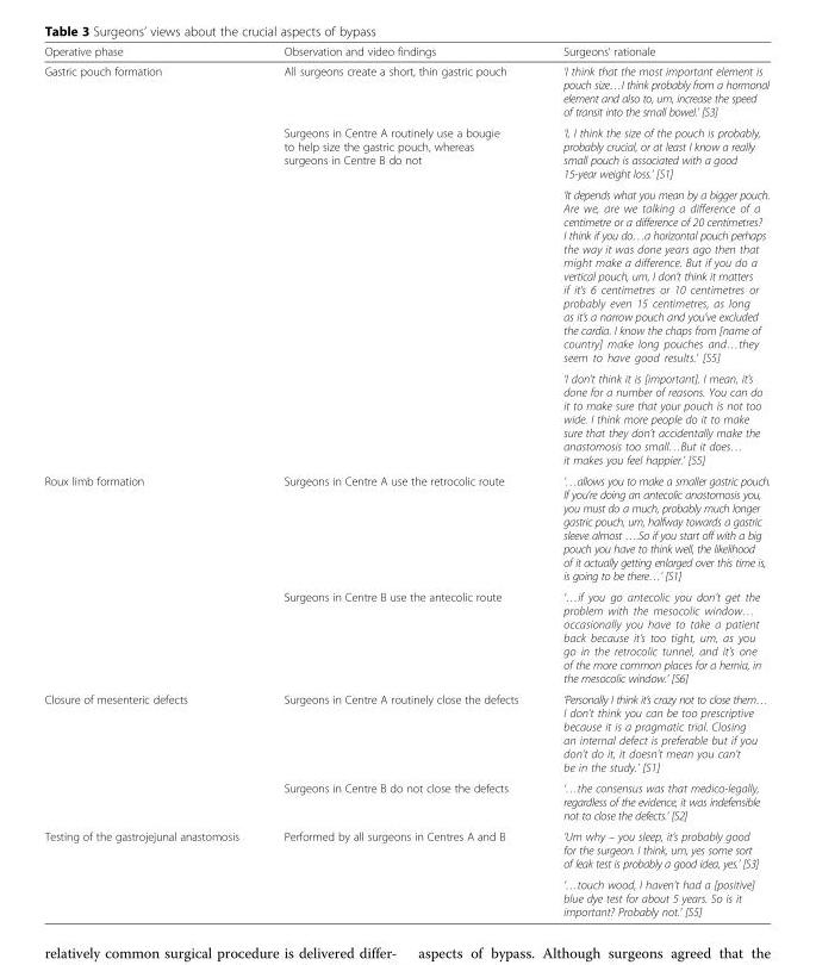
<table><thead><tr><td>Operative phase</td><td>Observation and video findings</td><td>Surgeons’ rationale</td></tr></thead><tbody><tr><td rowspan="4">Gastric pouch formation</td><td>All surgeons create a short, thin gastric pouch</td><td>‘I think that the most important element is pouch size…I think probably from a hormonal element and also to, um, increase the speed of transit into the small bowel.’ [S3]</td></tr><tr><td rowspan="3">Surgeons in Centre A routinely use a bougie to help size the gastric pouch, whereas surgeons in Centre B do not</td><td>‘I, I think the size of the pouch is probably, probably crucial, or at least I know a really small pouch is associated with a good 15-year weight loss.’ [S1]</td></tr><tr><td>‘It depends what you mean by a bigger pouch. Are we, are we talking a difference of a centimetre or a difference of 20 centimetres? I think if you do…a horizontal pouch perhaps the way it was done years ago then that might make a difference. But if you do a vertical pouch, um, I don’t think it matters if it’s 6 centimetres or 10 centimetres or probably even 15 centimetres, as long as it’s a narrow pouch and you’ve excluded the cardia. I know the chaps from [name of country] make long pouches and…they seem to have good results.’ [S5]</td></tr><tr><td>‘I don’t think it is [important]. I mean, it’s done for a number of reasons. You can do it to make sure that your pouch is not too wide. I think more people do it to make sure that they don’t accidentally make the anastomosis too small…But it does… it makes you feel happier.’ [S5]</td></tr><tr><td rowspan="2">Roux limb formation</td><td>Surgeons in Centre A use the retrocolic route</td><td>‘…allows you to make a smaller gastric pouch. If you’re doing an antecolic anastomosis you, you must do a much, probably much longer gastric pouch, um, halfway towards a gastric sleeve almost ….So if you start off with a big pouch you have to think well, the likelihood of it actually getting enlarged over this time is, is going to be there…’ [S1]</td></tr><tr><td>Surgeons in Centre B use the antecolic route</td><td>‘…if you go antecolic you don’t get the problem with the mesocolic window… occasionally you have to take a patient back because it’s too tight, um, as you go in the retrocolic tunnel, and it’s one of the more common places for a hernia, in the mesocolic window.’ [S6]</td></tr><tr><td rowspan="2">Closure of mesenteric defects</td><td>Surgeons in Centre A routinely close the defects</td><td>‘Personally I think it’s crazy not to close them… I don’t think you can be too prescriptive because it is a pragmatic trial. Closing an internal defect is preferable but if you don’t do it, it doesn’t mean you can’t be in the study.’ [S1]</td></tr><tr><td>Surgeons in Centre B do not close the defects</td><td>‘…the consensus was that medico-legally, regardless of the evidence, it was indefensible not to close the defects.’ [S2]</td></tr><tr><td rowspan="2">Testing of the gastrojejunal anastomosis</td><td rowspan="2">Performed by all surgeons in Centres A and B</td><td>‘Um why – you sleep, it’s probably good for the surgeon. I think, um, yes some sort of leak test is probably a good idea, yes.’ [S3]</td></tr><tr><td>‘…touch wood, I haven’t had a [positive] blue dye test for about 5 years. So is it important? Probably not.’ [S5]</td></tr></tbody></table>